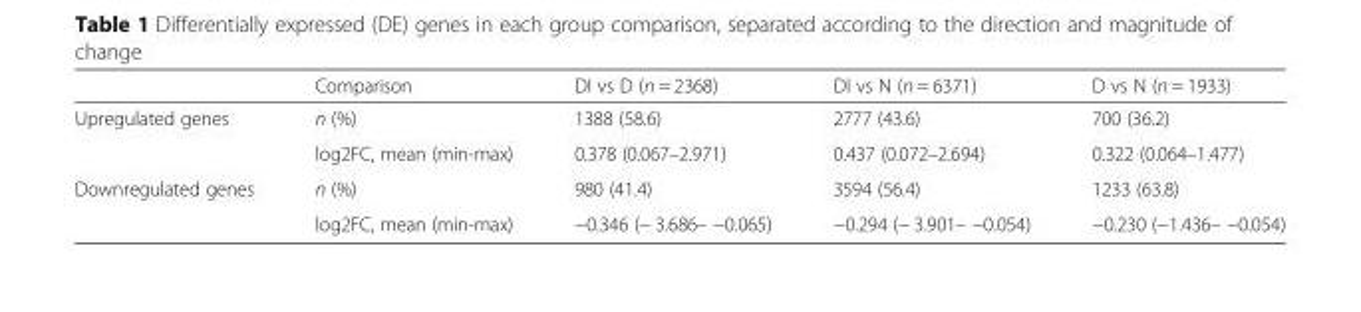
<table><thead><tr><td></td><td>Comparison</td><td>DI vs D (n = 2368)</td><td>DI vs N (n = 6371)</td><td>D vs N (n = 1933)</td></tr></thead><tbody><tr><td rowspan="2">Upregulated genes</td><td>n (%)</td><td>1388 (58.6)</td><td>2777 (43.6)</td><td>700 (36.2)</td></tr><tr><td>log2FC, mean (min-max)</td><td>0.378 (0.067–2.971)</td><td>0.437 (0.072–2.694)</td><td>0.322 (0.064–1.477)</td></tr><tr><td rowspan="2">Downregulated genes</td><td>n (%)</td><td>980 (41.4)</td><td>3594 (56.4)</td><td>1233 (63.8)</td></tr><tr><td>log2FC, mean (min-max)</td><td>−0.346 (− 3.686– −0.065)</td><td>−0.294 (− 3.901– −0.054)</td><td>−0.230 (−1.436– −0.054)</td></tr></tbody></table>